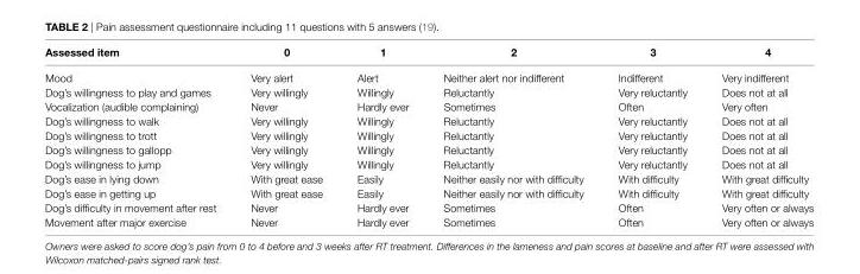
<table><thead><tr><td>assessed item</td><td>0</td><td>1</td><td>2</td><td>3</td><td>4</td></tr></thead><tbody><tr><td>Mood</td><td>Very alert</td><td>Alert</td><td>Neither alert nor indifferent</td><td>Indifferent</td><td>Very indifferent</td></tr><tr><td>Dog’s willingness to play and games</td><td>Very willingly</td><td>Willingly</td><td>Reluctantly</td><td>Very reluctantly</td><td>Does not at all</td></tr><tr><td>Vocalization (audible complaining)</td><td>Never</td><td>Hardly ever</td><td>Sometimes</td><td>Often</td><td>Very often</td></tr><tr><td>Dog’s willingness to walk</td><td>Very willingly</td><td>Willingly</td><td>Reluctantly</td><td>Very reluctantly</td><td>Does not at all</td></tr><tr><td>Dog’s willingness to trott</td><td>Very willingly</td><td>Willingly</td><td>Reluctantly</td><td>Very reluctantly</td><td>Does not at all</td></tr><tr><td>Dog’s willingness to gallopp</td><td>Very willingly</td><td>Willingly</td><td>Reluctantly</td><td>Very reluctantly</td><td>Does not at all</td></tr><tr><td>Dog’s willingness to jump</td><td>Very willingly</td><td>Willingly</td><td>Reluctantly</td><td>Very reluctantly</td><td>Does not at all</td></tr><tr><td>Dog’s ease in lying down</td><td>With great ease</td><td>Easily</td><td>Neither easily nor with difficulty</td><td>With difficulty</td><td>With great difficulty</td></tr><tr><td>Dog’s ease in getting up</td><td>With great ease</td><td>Easily</td><td>Neither easily nor with difficulty</td><td>With difficulty</td><td>With great difficulty</td></tr><tr><td>Dog’s difficulty in movement after rest</td><td>Never</td><td>Hardly ever</td><td>Sometimes</td><td>Often</td><td>Very often or always</td></tr><tr><td>Movement after major exercise</td><td>Never</td><td>Hardly ever</td><td>Sometimes</td><td>Often</td><td>Very often or always</td></tr></tbody></table>